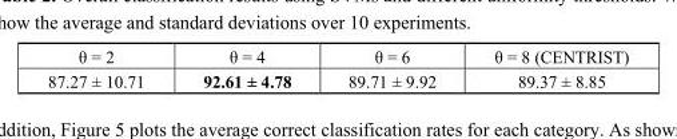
<table><tbody><tr><td>θ = 2</td><td>θ = 4</td><td>θ = 6</td><td>θ = 8 (CENTRIST)</td></tr><tr><td>87.27 ± 10.71</td><td>92.61 ± 4.78</td><td>89.71 ± 9.92</td><td>89.37 ± 8.85</td></tr></tbody></table>